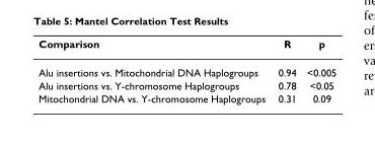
<table><thead><tr><td>Comparison</td><td>R</td><td>p</td></tr></thead><tbody><tr><td>Alu insertions vs. Mitochondrial DNA Haplogroups</td><td>0.94</td><td>&lt;0.005</td></tr><tr><td>Alu insertions vs. Y-chromosome Haplogroups</td><td>0.78</td><td>&lt;0.05</td></tr><tr><td>Mitochondrial DNA vs. Y-chromosome Haplogroups</td><td>0.31</td><td>0.09</td></tr></tbody></table>